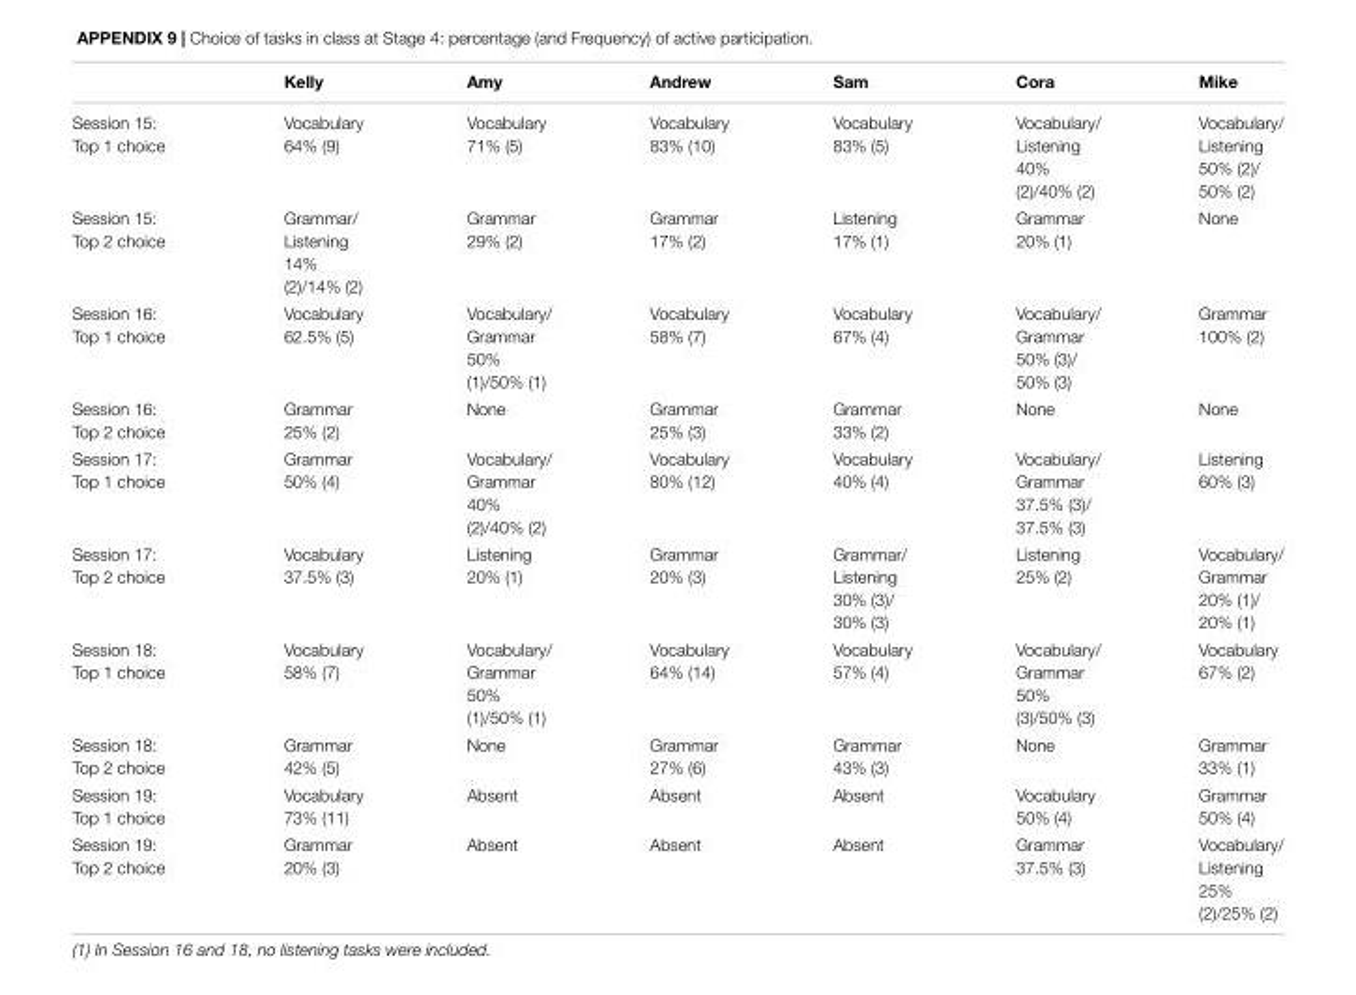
<table><thead><tr><td></td><td>Kelly</td><td>Amy</td><td>Andrew</td><td>Sam</td><td>Cora</td><td>Mike</td></tr></thead><tbody><tr><td>Session 15: Top 1 choice</td><td>Vocabulary 64% (9)</td><td>Vocabulary 71% (5)</td><td>Vocabulary 83% (10)</td><td>Vocabulary 83% (5)</td><td>Vocabulary/ Listening 40% (2)/40% (2)</td><td>Vocabulary/ Listening 50% (2)/ 50% (2)</td></tr><tr><td>Session 15: Top 2 choice</td><td>Grammar/ Listening 14% (2)/14% (2)</td><td>Grammar 29% (2)</td><td>Grammar 17% (2)</td><td>Listening 17% (1)</td><td>Grammar 20% (1)</td><td>None</td></tr><tr><td>Session 16: Top 1 choice</td><td>Vocabulary 62.5% (5)</td><td>Vocabulary/ Grammar 50% (1)/50% (1)</td><td>Vocabulary 58% (7)</td><td>Vocabulary 67% (4)</td><td>Vocabulary/ Grammar 50% (3)/ 50% (3)</td><td>Grammar 100% (2)</td></tr><tr><td>Session 16: Top 2 choice</td><td>Grammar 25% (2)</td><td>None</td><td>Grammar 25% (3)</td><td>Grammar 33% (2)</td><td>None</td><td>None</td></tr><tr><td>Session 17: Top 1 choice</td><td>Grammar 50% (4)</td><td>Vocabulary/ Grammar 40% (2)/40% (2)</td><td>Vocabulary 80% (12)</td><td>Vocabulary 40% (4)</td><td>Vocabulary/ Grammar 37.5% (3)/ 37.5% (3)</td><td>Listening 60% (3)</td></tr><tr><td>Session 17: Top 2 choice</td><td>Vocabulary 37.5% (3)</td><td>Listening 20% (1)</td><td>Grammar 20% (3)</td><td>Grammar/ Listening 30% (3)/ 30% (3)</td><td>Listening 25% (2)</td><td>Vocabulary/ Grammar 20% (1)/ 20% (1)</td></tr><tr><td>Session 18: Top 1 choice</td><td>Vocabulary 58% (7)</td><td>Vocabulary/ Grammar 50% (1)/50% (1)</td><td>Vocabulary 64% (14)</td><td>Vocabulary 57% (4)</td><td>Vocabulary/ Grammar 50% (3)/50% (3)</td><td>Vocabulary 67% (2)</td></tr><tr><td>Session 18: Top 2 choice</td><td>Grammar 42% (5)</td><td>None</td><td>Grammar 27% (6)</td><td>Grammar 43% (3)</td><td>None</td><td>Grammar 33% (1)</td></tr><tr><td>Session 19: Top 1 choice</td><td>Vocabulary 73% (11)</td><td>Absent</td><td>Absent</td><td>Absent</td><td>Vocabulary 50% (4)</td><td>Grammar 50% (4)</td></tr><tr><td>Session 19: Top 2 choice</td><td>Grammar 20% (3)</td><td>Absent</td><td>Absent</td><td>Absent</td><td>Grammar 37.5% (3)</td><td>Vocabulary/ Listening 25% (2)/25% (2)</td></tr></tbody></table>